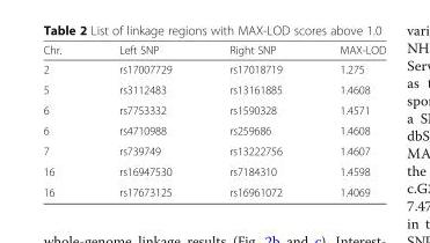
<table><thead><tr><td>Chr.</td><td>Left SNP</td><td>Right SNP</td><td>MAX-LOD</td></tr></thead><tbody><tr><td>2</td><td>rs17007729</td><td>rs17018719</td><td>1.275</td></tr><tr><td>5</td><td>rs3112483</td><td>rs13161885</td><td>1.4608</td></tr><tr><td>6</td><td>rs7753332</td><td>rs1590328</td><td>1.4571</td></tr><tr><td>6</td><td>rs4710988</td><td>rs259686</td><td>1.4608</td></tr><tr><td>7</td><td>rs739749</td><td>rs13222756</td><td>1.4607</td></tr><tr><td>16</td><td>rs16947530</td><td>rs7184310</td><td>1.4598</td></tr><tr><td>16</td><td>rs17673125</td><td>rs16961072</td><td>1.4069</td></tr></tbody></table>